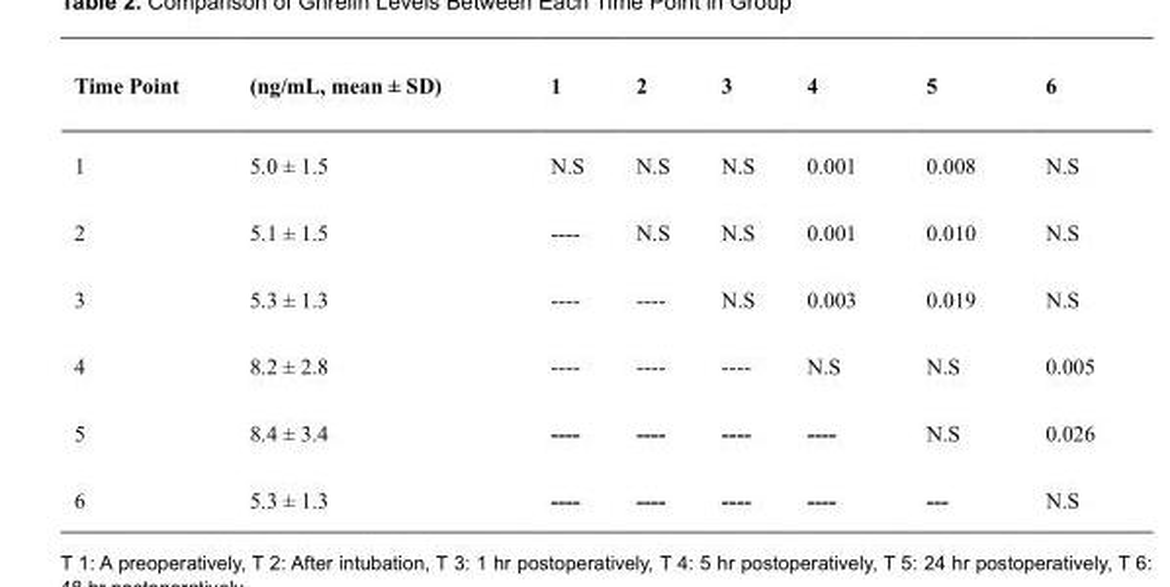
<table><thead><tr><td>Time Point</td><td>(ng/mL, mean ± SD)</td><td>1</td><td>2</td><td>3</td><td>4</td><td>5</td><td>6</td></tr></thead><tbody><tr><td>1</td><td>5.0 ± 1.5</td><td>N.S</td><td>N.S</td><td>N.S</td><td>0.001</td><td>0.008</td><td>N.S</td></tr><tr><td>2</td><td>5.1 ± 1.5</td><td>----</td><td>N.S</td><td>N.S</td><td>0.001</td><td>0.010</td><td>N.S</td></tr><tr><td>3</td><td>5.3 ± 1.3</td><td>----</td><td>----</td><td>N.S</td><td>0.003</td><td>0.019</td><td>N.S</td></tr><tr><td>4</td><td>8.2 ± 2.8</td><td>----</td><td>----</td><td>----</td><td>N.S</td><td>N.S</td><td>0.005</td></tr><tr><td>5</td><td>8.4 ± 3.4</td><td>----</td><td>----</td><td>----</td><td>----</td><td>N.S</td><td>0.026</td></tr><tr><td>6</td><td>5.3 ± 1.3</td><td>----</td><td>----</td><td>----</td><td>----</td><td>---</td><td>N.S</td></tr></tbody></table>